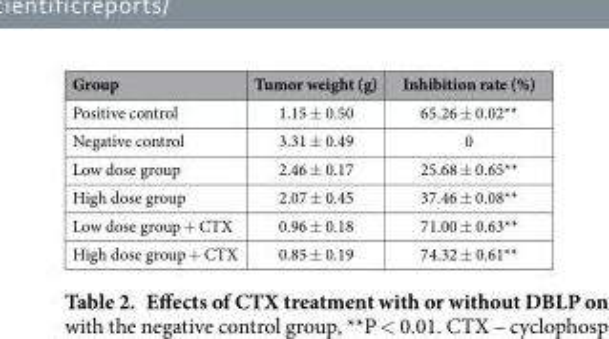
<table><thead><tr><td>Group</td><td>Tumor weight (g)</td><td>Inhibition rate (%)</td></tr></thead><tbody><tr><td>Positive control</td><td>1.15 ± 0.50</td><td>65.26 ± 0.02**</td></tr><tr><td>Negative control</td><td>3.31 ± 0.49</td><td>0</td></tr><tr><td>Low dose group</td><td>2.46 ± 0.17</td><td>25.68 ± 0.65**</td></tr><tr><td>High dose group</td><td>2.07 ± 0.45</td><td>37.46 ± 0.08**</td></tr><tr><td>Low dose group + CTX</td><td>0.96 ± 0.18</td><td>71.00 ± 0.63**</td></tr><tr><td>High dose group + CTX</td><td>0.85 ± 0.19</td><td>74.32 ± 0.61**</td></tr></tbody></table>